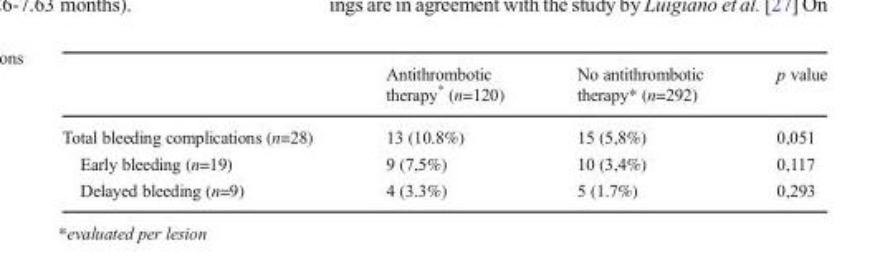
<table><thead><tr><td></td><td>Antithrombotic therapy* (n=120)</td><td>No antithrombotic therapy* (n=292)</td><td>p value</td></tr></thead><tbody><tr><td>Total bleeding complications (n=28)</td><td>13 (10.8%)</td><td>15 (5,8%)</td><td>0,051</td></tr><tr><td>Early bleeding (n=19)</td><td>9 (7,5%)</td><td>10 (3,4%)</td><td>0,117</td></tr><tr><td>Delayed bleeding (n=9)</td><td>4 (3.3%)</td><td>5 (1.7%)</td><td>0,293</td></tr></tbody></table>